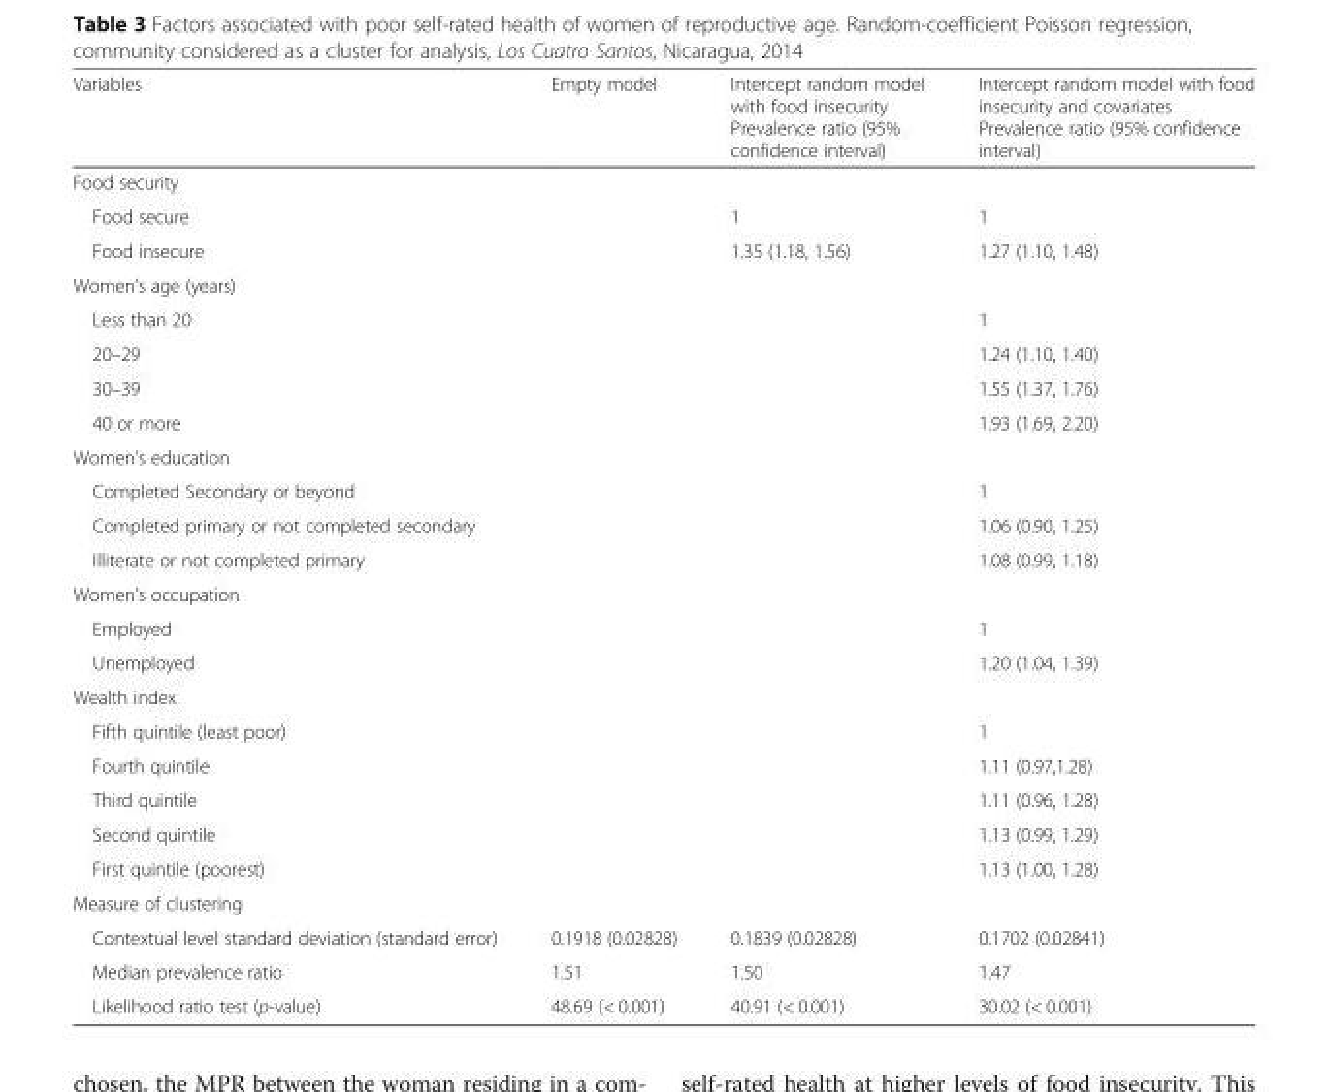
<table><thead><tr><td>Variables</td><td>Empty model</td><td>Intercept random model with food insecurity Prevalence ratio (95% confidence interval)</td><td>Intercept random model with food insecurity and covariates Prevalence ratio (95% confidence interval)</td></tr></thead><tbody><tr><td colspan="4">Food security</td></tr><tr><td>Food secure</td><td></td><td>1</td><td>1</td></tr><tr><td>Food insecure</td><td></td><td>1.35 (1.18, 1.56)</td><td>1.27 (1.10, 1.48)</td></tr><tr><td colspan="4">Women’s age (years)</td></tr><tr><td>Less than 20</td><td></td><td></td><td>1</td></tr><tr><td>20–29</td><td></td><td></td><td>1.24 (1.10, 1.40)</td></tr><tr><td>30–39</td><td></td><td></td><td>1.55 (1.37, 1.76)</td></tr><tr><td>40 or more</td><td></td><td></td><td>1.93 (1.69, 2.20)</td></tr><tr><td colspan="4">Women’s education</td></tr><tr><td>Completed Secondary or beyond</td><td></td><td></td><td>1</td></tr><tr><td>Completed primary or not completed secondary</td><td></td><td></td><td>1.06 (0.90, 1.25)</td></tr><tr><td>Illiterate or not completed primary</td><td></td><td></td><td>1.08 (0.99, 1.18)</td></tr><tr><td colspan="4">Women’s occupation</td></tr><tr><td>Employed</td><td></td><td></td><td>1</td></tr><tr><td>Unemployed</td><td></td><td></td><td>1.20 (1.04, 1.39)</td></tr><tr><td colspan="4">Wealth index</td></tr><tr><td>Fifth quintile (least poor)</td><td></td><td></td><td>1</td></tr><tr><td>Fourth quintile</td><td></td><td></td><td>1.11 (0.97,1.28)</td></tr><tr><td>Third quintile</td><td></td><td></td><td>1.11 (0.96, 1.28)</td></tr><tr><td>Second quintile</td><td></td><td></td><td>1.13 (0.99, 1.29)</td></tr><tr><td>First quintile (poorest)</td><td></td><td></td><td>1.13 (1.00, 1.28)</td></tr><tr><td colspan="4">Measure of clustering</td></tr><tr><td>Contextual level standard deviation (standard error)</td><td>0.1918 (0.02828)</td><td>0.1839 (0.02828)</td><td>0.1702 (0.02841)</td></tr><tr><td>Median prevalence ratio</td><td>1.51</td><td>1.50</td><td>1.47</td></tr><tr><td>Likelihood ratio test (p-value)</td><td>48.69 (&lt; 0.001)</td><td>40.91 (&lt; 0.001)</td><td>30.02 (&lt; 0.001)</td></tr></tbody></table>